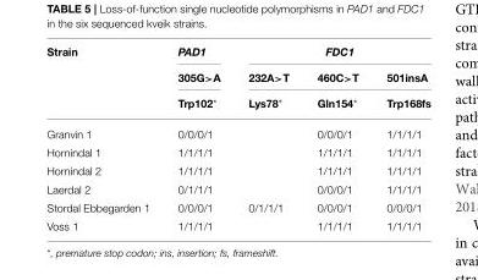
<table><thead><tr><td rowspan="3">Strain</td><td rowspan="3">PAD1 305G&gt;A Trp102*</td><td colspan="3">FDC1</td></tr><tr><td rowspan="2">232A&gt;T Lys78*</td><td rowspan="2">460C&gt;T Gln154*</td><td rowspan="2">501insA Trp168fs</td></tr><tr></tr></thead><tbody><tr><td>Granvin 1</td><td>0/0/0/1</td><td></td><td>0/0/0/1</td><td>1/1/1/1</td></tr><tr><td>Hornindal 1</td><td>1/1/1/1</td><td></td><td>1/1/1/1</td><td>1/1/1/1</td></tr><tr><td>Hornindal 2</td><td>1/1/1/1</td><td></td><td>1/1/1/1</td><td>1/1/1/1</td></tr><tr><td>Laerdal 2</td><td>0/1/1/1</td><td></td><td>0/0/0/1</td><td>1/1/1/1</td></tr><tr><td>Stordal Ebbegarden 1</td><td>0/0/0/1</td><td>0/1/1/1</td><td>0/0/0/1</td><td>0/0/0/1</td></tr><tr><td>Voss 1</td><td>1/1/1/1</td><td></td><td>1/1/1/1</td><td>1/1/1/1</td></tr></tbody></table>